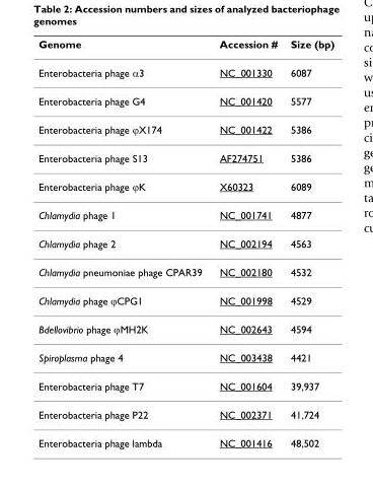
<table><thead><tr><td>Genome</td><td>Accession #</td><td>Size (bp)</td></tr></thead><tbody><tr><td>Enterobacteria phage α3</td><td>NC_001330</td><td>6087</td></tr><tr><td>Enterobacteria phage G4</td><td>NC_001420</td><td>5577</td></tr><tr><td>Enterobacteria phage ϕX174</td><td>NC_001422</td><td>5386</td></tr><tr><td>Enterobacteria phage S13</td><td>AF274751</td><td>5386</td></tr><tr><td>Enterobacteria phage ϕK</td><td>X60323</td><td>6089</td></tr><tr><td>Chlamydia phage 1</td><td>NC_001741</td><td>4877</td></tr><tr><td>Chlamydia phage 2</td><td>NC_002194</td><td>4563</td></tr><tr><td>Chlamydia pneumoniae phage CPAR39</td><td>NC_002180</td><td>4532</td></tr><tr><td>Chlamydia phage ϕCPG1</td><td>NC_001998</td><td>4529</td></tr><tr><td>Bdellovibrio phage ϕMH2K</td><td>NC_002643</td><td>4594</td></tr><tr><td>Spiroplasma phage 4</td><td>NC_003438</td><td>4421</td></tr><tr><td>Enterobacteria phage T7</td><td>NC_001604</td><td>39,937</td></tr><tr><td>Enterobacteria phage P22</td><td>NC_002371</td><td>41,724</td></tr><tr><td>Enterobacteria phage lambda</td><td>NC_001416</td><td>48,502</td></tr></tbody></table>